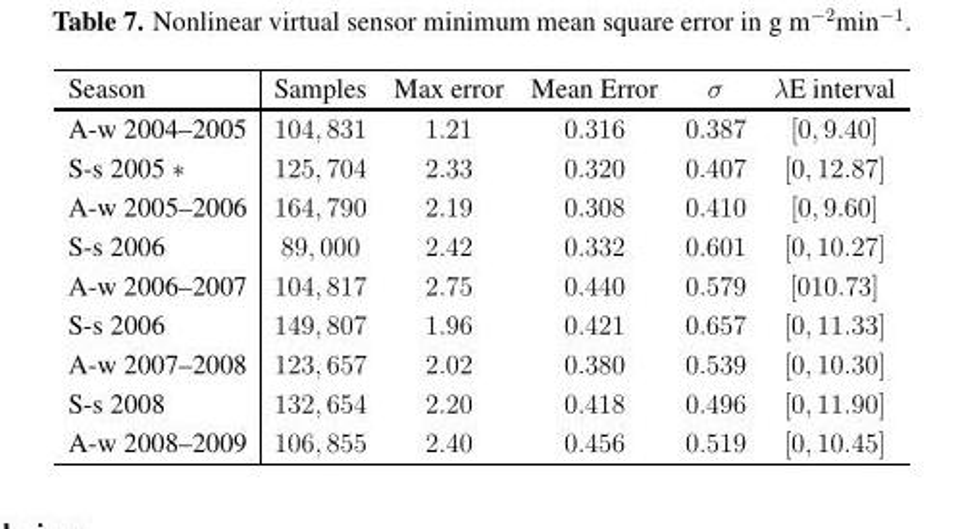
<table><thead><tr><td>Season</td><td>Samples</td><td>Max error</td><td>Mean Error</td><td>σ</td><td>λE interval</td></tr></thead><tbody><tr><td>A-w 2004–2005</td><td>104, 831</td><td>1.21</td><td>0.316</td><td>0.387</td><td>[0, 9.40]</td></tr><tr><td>S-s 2005 ∗</td><td>125, 704</td><td>2.33</td><td>0.320</td><td>0.407</td><td>[0, 12.87]</td></tr><tr><td>A-w 2005–2006</td><td>164, 790</td><td>2.19</td><td>0.308</td><td>0.410</td><td>[0, 9.60]</td></tr><tr><td>S-s 2006</td><td>89, 000</td><td>2.42</td><td>0.332</td><td>0.601</td><td>[0, 10.27]</td></tr><tr><td>A-w 2006–2007</td><td>104, 817</td><td>2.75</td><td>0.440</td><td>0.579</td><td>[010.73]</td></tr><tr><td>S-s 2006</td><td>149, 807</td><td>1.96</td><td>0.421</td><td>0.657</td><td>[0, 11.33]</td></tr><tr><td>A-w 2007–2008</td><td>123, 657</td><td>2.02</td><td>0.380</td><td>0.539</td><td>[0, 10.30]</td></tr><tr><td>S-s 2008</td><td>132, 654</td><td>2.20</td><td>0.418</td><td>0.496</td><td>[0, 11.90]</td></tr><tr><td>A-w 2008–2009</td><td>106, 855</td><td>2.40</td><td>0.456</td><td>0.519</td><td>[0, 10.45]</td></tr></tbody></table>